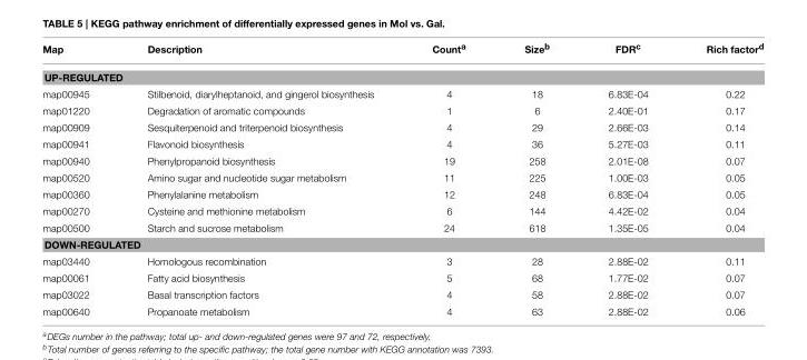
<table><thead><tr><td>Map</td><td>Description</td><td>Count<sup>a</sup></td><td>Size<sup>b</sup></td><td>FDR<sup>c</sup></td><td>Rich factor<sup>d</sup></td></tr></thead><tbody><tr><td colspan="6">UP-REGULATED</td></tr><tr><td>map00945</td><td>Stilbenoid, diarylheptanoid, and gingerol biosynthesis</td><td>4</td><td>18</td><td>6.83E-04</td><td>0.22</td></tr><tr><td>map01220</td><td>Degradation of aromatic compounds</td><td>1</td><td>6</td><td>2.40E-01</td><td>0.17</td></tr><tr><td>map00909</td><td>Sesquiterpenoid and triterpenoid biosynthesis</td><td>4</td><td>29</td><td>2.66E-03</td><td>0.14</td></tr><tr><td>map00941</td><td>Flavonoid biosynthesis</td><td>4</td><td>36</td><td>5.27E-03</td><td>0.11</td></tr><tr><td>map00940</td><td>Phenylpropanoid biosynthesis</td><td>19</td><td>258</td><td>2.01E-08</td><td>0.07</td></tr><tr><td>map00520</td><td>Amino sugar and nucleotide sugar metabolism</td><td>11</td><td>225</td><td>1.00E-03</td><td>0.05</td></tr><tr><td>map00360</td><td>Phenylalanine metabolism</td><td>12</td><td>248</td><td>6.83E-04</td><td>0.05</td></tr><tr><td>map00270</td><td>Cysteine and methionine metabolism</td><td>6</td><td>144</td><td>4.42E-02</td><td>0.04</td></tr><tr><td>map00500</td><td>Starch and sucrose metabolism</td><td>24</td><td>618</td><td>1.35E-05</td><td>0.04</td></tr><tr><td colspan="6">DOWN-REGULATED</td></tr><tr><td>map03440</td><td>Homologous recombination</td><td>3</td><td>28</td><td>2.88E-02</td><td>0.11</td></tr><tr><td>map00061</td><td>Fatty acid biosynthesis</td><td>5</td><td>68</td><td>1.77E-02</td><td>0.07</td></tr><tr><td>map03022</td><td>Basal transcription factors</td><td>4</td><td>58</td><td>2.88E-02</td><td>0.07</td></tr><tr><td>map00640</td><td>Propanoate metabolism</td><td>4</td><td>63</td><td>2.88E-02</td><td>0.06</td></tr></tbody></table>